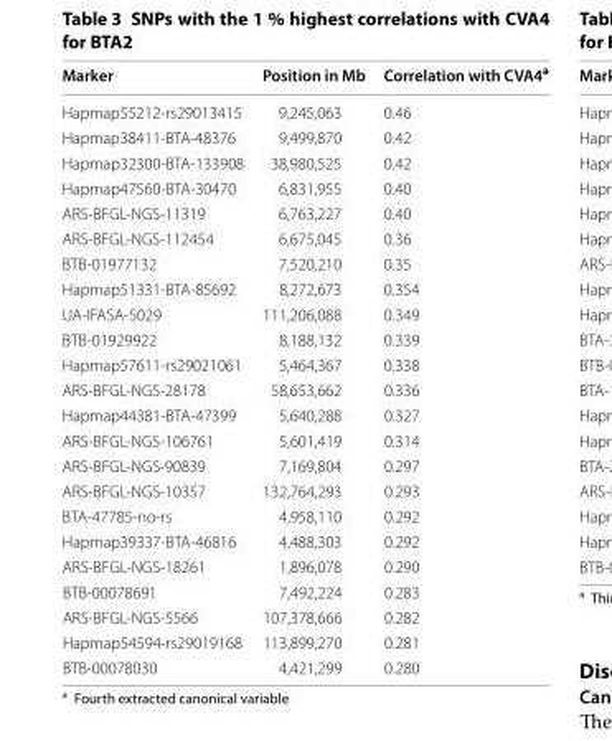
<table><thead><tr><td>Marker</td><td>Position in Mb</td><td>Correlation with CVA4<sup>a</sup></td></tr></thead><tbody><tr><td>Hapmap55212-rs29013415</td><td>9,245,063</td><td>0.46</td></tr><tr><td>Hapmap38411-BTA-48376</td><td>9,499,870</td><td>0.42</td></tr><tr><td>Hapmap32300-BTA-133908</td><td>38,980,525</td><td>0.42</td></tr><tr><td>Hapmap47560-BTA-30470</td><td>6,831,955</td><td>0.40</td></tr><tr><td>ARS-BFGL-NGS-11319</td><td>6,763,227</td><td>0.40</td></tr><tr><td>ARS-BFGL-NGS-112454</td><td>6,675,045</td><td>0.36</td></tr><tr><td>BTB-01977132</td><td>7,520,210</td><td>0.35</td></tr><tr><td>Hapmap51331-BTA-85692</td><td>8,272,673</td><td>0.354</td></tr><tr><td>UA-IFASA-5029</td><td>111,206,088</td><td>0.349</td></tr><tr><td>BTB-01929922</td><td>8,188,132</td><td>0.339</td></tr><tr><td>Hapmap57611-rs29021061</td><td>5,464,367</td><td>0.338</td></tr><tr><td>ARS-BFGL-NGS-28178</td><td>58,653,662</td><td>0.336</td></tr><tr><td>Hapmap44381-BTA-47399</td><td>5,640,288</td><td>0.327</td></tr><tr><td>ARS-BFGL-NGS-106761</td><td>5,601,419</td><td>0.314</td></tr><tr><td>ARS-BFGL-NGS-90839</td><td>7,169,804</td><td>0.297</td></tr><tr><td>ARS-BFGL-NGS-10357</td><td>132,764,293</td><td>0.293</td></tr><tr><td>BTA-47785-no-rs</td><td>4,958,110</td><td>0.292</td></tr><tr><td>Hapmap39337-BTA-46816</td><td>4,488,303</td><td>0.292</td></tr><tr><td>ARS-BFGL-NGS-18261</td><td>1,896,078</td><td>0.290</td></tr><tr><td>BTB-00078691</td><td>7,492,224</td><td>0.283</td></tr><tr><td>ARS-BFGL-NGS-5566</td><td>107,378,666</td><td>0.282</td></tr><tr><td>Hapmap54594-rs29019168</td><td>113,899,270</td><td>0.281</td></tr><tr><td>BTB-00078030</td><td>4,421,299</td><td>0.280</td></tr></tbody></table>